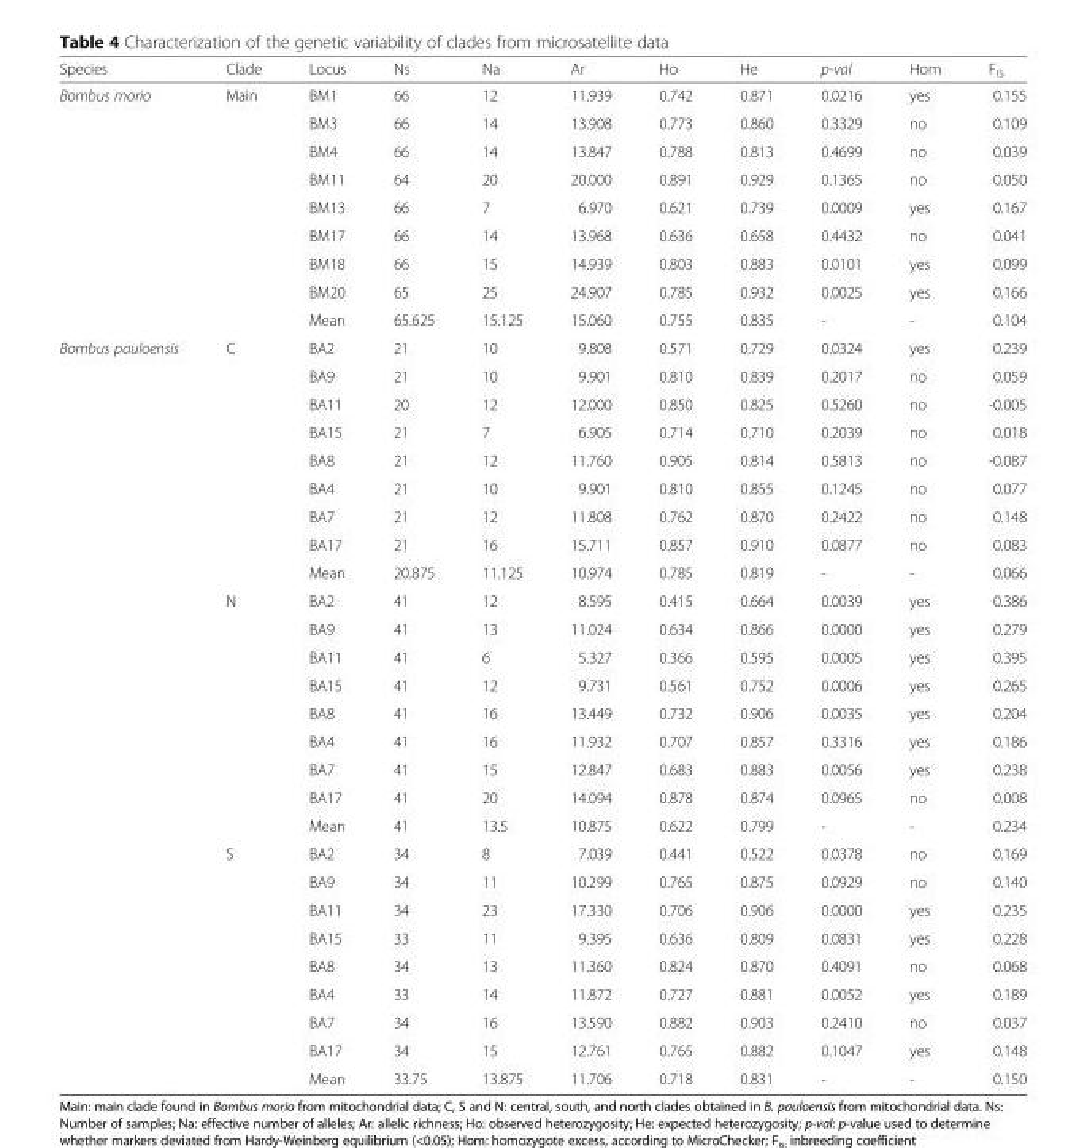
<table><thead><tr><td>Species</td><td>Clade</td><td>Locus</td><td>Ns</td><td>Na</td><td>Ar</td><td>Ho</td><td>He</td><td>p-val</td><td>Hom</td><td>F<sub>IS</sub></td></tr></thead><tbody><tr><td rowspan="9">Bombus morio</td><td rowspan="9">Main</td><td>BM1</td><td>66</td><td>12</td><td>11.939</td><td>0.742</td><td>0.871</td><td>0.0216</td><td>yes</td><td>0.155</td></tr><tr><td>BM3</td><td>66</td><td>14</td><td>13.908</td><td>0.773</td><td>0.860</td><td>0.3329</td><td>no</td><td>0.109</td></tr><tr><td>BM4</td><td>66</td><td>14</td><td>13.847</td><td>0.788</td><td>0.813</td><td>0.4699</td><td>no</td><td>0.039</td></tr><tr><td>BM11</td><td>64</td><td>20</td><td>20.000</td><td>0.891</td><td>0.929</td><td>0.1365</td><td>no</td><td>0.050</td></tr><tr><td>BM13</td><td>66</td><td>7</td><td>6.970</td><td>0.621</td><td>0.739</td><td>0.0009</td><td>yes</td><td>0.167</td></tr><tr><td>BM17</td><td>66</td><td>14</td><td>13.968</td><td>0.636</td><td>0.658</td><td>0.4432</td><td>no</td><td>0.041</td></tr><tr><td>BM18</td><td>66</td><td>15</td><td>14.939</td><td>0.803</td><td>0.883</td><td>0.0101</td><td>yes</td><td>0.099</td></tr><tr><td>BM20</td><td>65</td><td>25</td><td>24.907</td><td>0.785</td><td>0.932</td><td>0.0025</td><td>yes</td><td>0.166</td></tr><tr><td>Mean</td><td>65.625</td><td>15.125</td><td>15.060</td><td>0.755</td><td>0.835</td><td>-</td><td>-</td><td>0.104</td></tr><tr><td rowspan="27">Bombus pauloensis</td><td rowspan="9">C</td><td>BA2</td><td>21</td><td>10</td><td>9.808</td><td>0.571</td><td>0.729</td><td>0.0324</td><td>yes</td><td>0.239</td></tr><tr><td>BA9</td><td>21</td><td>10</td><td>9.901</td><td>0.810</td><td>0.839</td><td>0.2017</td><td>no</td><td>0.059</td></tr><tr><td>BA11</td><td>20</td><td>12</td><td>12.000</td><td>0.850</td><td>0.825</td><td>0.5260</td><td>no</td><td>-0.005</td></tr><tr><td>BA15</td><td>21</td><td>7</td><td>6.905</td><td>0.714</td><td>0.710</td><td>0.2039</td><td>no</td><td>0.018</td></tr><tr><td>BA8</td><td>21</td><td>12</td><td>11.760</td><td>0.905</td><td>0.814</td><td>0.5813</td><td>no</td><td>-0.087</td></tr><tr><td>BA4</td><td>21</td><td>10</td><td>9.901</td><td>0.810</td><td>0.855</td><td>0.1245</td><td>no</td><td>0.077</td></tr><tr><td>BA7</td><td>21</td><td>12</td><td>11.808</td><td>0.762</td><td>0.870</td><td>0.2422</td><td>no</td><td>0.148</td></tr><tr><td>BA17</td><td>21</td><td>16</td><td>15.711</td><td>0.857</td><td>0.910</td><td>0.0877</td><td>no</td><td>0.083</td></tr><tr><td>Mean</td><td>20.875</td><td>11.125</td><td>10.974</td><td>0.785</td><td>0.819</td><td>-</td><td>-</td><td>0.066</td></tr><tr><td rowspan="9">N</td><td>BA2</td><td>41</td><td>12</td><td>8.595</td><td>0.415</td><td>0.664</td><td>0.0039</td><td>yes</td><td>0.386</td></tr><tr><td>BA9</td><td>41</td><td>13</td><td>11.024</td><td>0.634</td><td>0.866</td><td>0.0000</td><td>yes</td><td>0.279</td></tr><tr><td>BA11</td><td>41</td><td>6</td><td>5.327</td><td>0.366</td><td>0.595</td><td>0.0005</td><td>yes</td><td>0.395</td></tr><tr><td>BA15</td><td>41</td><td>12</td><td>9.731</td><td>0.561</td><td>0.752</td><td>0.0006</td><td>yes</td><td>0.265</td></tr><tr><td>BA8</td><td>41</td><td>16</td><td>13.449</td><td>0.732</td><td>0.906</td><td>0.0035</td><td>yes</td><td>0.204</td></tr><tr><td>BA4</td><td>41</td><td>16</td><td>11.932</td><td>0.707</td><td>0.857</td><td>0.3316</td><td>yes</td><td>0.186</td></tr><tr><td>BA7</td><td>41</td><td>15</td><td>12.847</td><td>0.683</td><td>0.883</td><td>0.0056</td><td>yes</td><td>0.238</td></tr><tr><td>BA17</td><td>41</td><td>20</td><td>14.094</td><td>0.878</td><td>0.874</td><td>0.0965</td><td>no</td><td>0.008</td></tr><tr><td>Mean</td><td>41</td><td>13.5</td><td>10.875</td><td>0.622</td><td>0.799</td><td>-</td><td>-</td><td>0.234</td></tr><tr><td rowspan="9">S</td><td>BA2</td><td>34</td><td>8</td><td>7.039</td><td>0.441</td><td>0.522</td><td>0.0378</td><td>no</td><td>0.169</td></tr><tr><td>BA9</td><td>34</td><td>11</td><td>10.299</td><td>0.765</td><td>0.875</td><td>0.0929</td><td>no</td><td>0.140</td></tr><tr><td>BA11</td><td>34</td><td>23</td><td>17.330</td><td>0.706</td><td>0.906</td><td>0.0000</td><td>yes</td><td>0.235</td></tr><tr><td>BA15</td><td>33</td><td>11</td><td>9.395</td><td>0.636</td><td>0.809</td><td>0.0831</td><td>yes</td><td>0.228</td></tr><tr><td>BA8</td><td>34</td><td>13</td><td>11.360</td><td>0.824</td><td>0.870</td><td>0.4091</td><td>no</td><td>0.068</td></tr><tr><td>BA4</td><td>33</td><td>14</td><td>11.872</td><td>0.727</td><td>0.881</td><td>0.0052</td><td>yes</td><td>0.189</td></tr><tr><td>BA7</td><td>34</td><td>16</td><td>13.590</td><td>0.882</td><td>0.903</td><td>0.2410</td><td>no</td><td>0.037</td></tr><tr><td>BA17</td><td>34</td><td>15</td><td>12.761</td><td>0.765</td><td>0.882</td><td>0.1047</td><td>yes</td><td>0.148</td></tr><tr><td>Mean</td><td>33.75</td><td>13.875</td><td>11.706</td><td>0.718</td><td>0.831</td><td>-</td><td>-</td><td>0.150</td></tr></tbody></table>